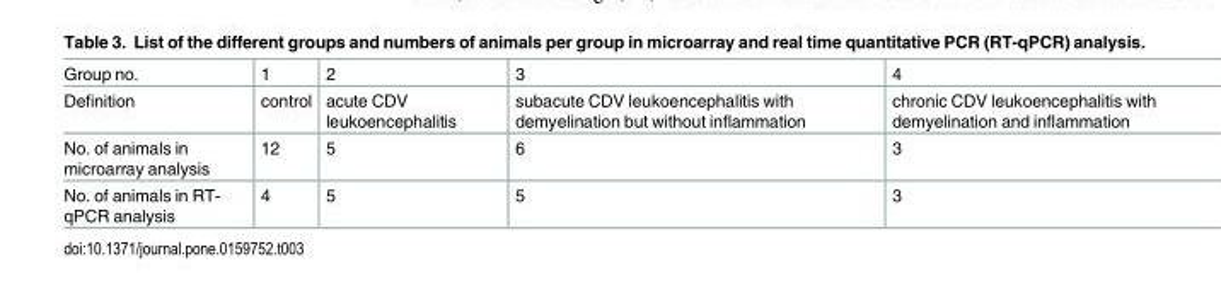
<table><tbody><tr><td>Group no.</td><td>1</td><td>2</td><td>3</td><td>4</td></tr><tr><td>Definition</td><td>control</td><td>acute CDV leukoencephalitis</td><td>subacute CDV leukoencephalitis with demyelination but without inflammation</td><td>chronic CDV leukoencephalitis with demyelination and inflammation</td></tr><tr><td>No. of animals in microarray analysis</td><td>12</td><td>5</td><td>6</td><td>3</td></tr><tr><td>No. of animals in RT- qPCR analysis</td><td>4</td><td>5</td><td>5</td><td>3</td></tr></tbody></table>